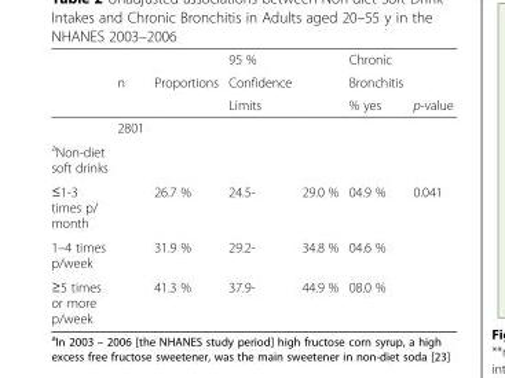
<table><thead><tr><td rowspan="3"></td><td rowspan="3">n</td><td rowspan="3">Proportions</td><td rowspan="3">95 % Confidence Limits</td><td rowspan="3"></td><td rowspan="3">Chronic Bronchitis % yes</td><td rowspan="3">p-value</td></tr><tr></tr><tr></tr></thead><tbody><tr><td></td><td>2801</td><td></td><td></td><td></td><td></td><td></td></tr><tr><td colspan="7"><sup>a</sup>Non-diet soft drinks</td></tr><tr><td>≤1-3 times p/ month</td><td></td><td>26.7 %</td><td>24.5-</td><td>29.0 %</td><td>04.9 %</td><td>0.041</td></tr><tr><td>1–4 times p/week</td><td></td><td>31.9 %</td><td>29.2-</td><td>34.8 %</td><td>04.6 %</td><td></td></tr><tr><td>≥5 times or more p/week</td><td></td><td>41.3 %</td><td>37.9-</td><td>44.9 %</td><td>08.0 %</td><td></td></tr></tbody></table>